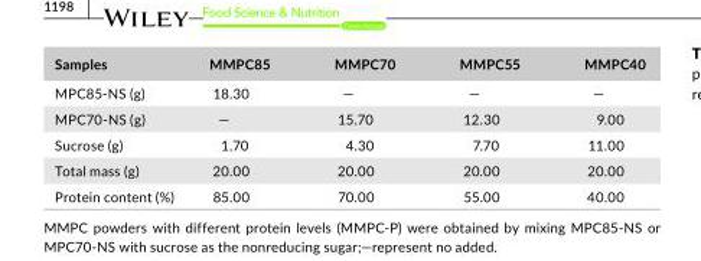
<table><thead><tr><td>Samples</td><td>MMPC85</td><td>MMPC70</td><td>MMPC55</td><td>MMPC40</td></tr></thead><tbody><tr><td>MPC85- NS (g)</td><td>18.30</td><td>—</td><td>—</td><td>—</td></tr><tr><td>MPC70- NS (g)</td><td>—</td><td>15.70</td><td>12.30</td><td>9.00</td></tr><tr><td>Sucrose (g)</td><td>1.70</td><td>4.30</td><td>7.70</td><td>11.00</td></tr><tr><td>Total mass (g)</td><td>20.00</td><td>20.00</td><td>20.00</td><td>20.00</td></tr><tr><td>Protein content (%)</td><td>85.00</td><td>70.00</td><td>55.00</td><td>40.00</td></tr></tbody></table>